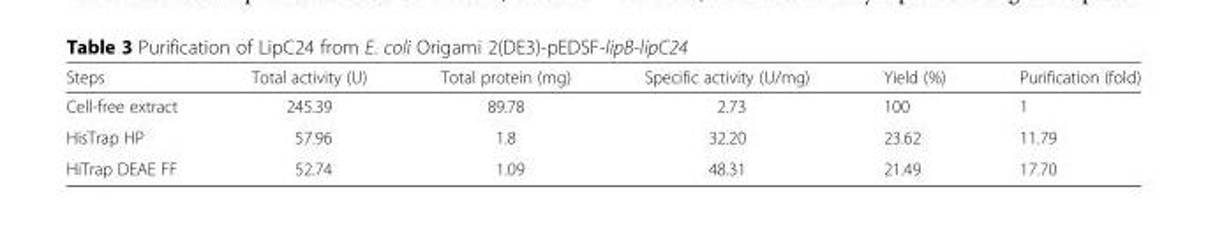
<table><thead><tr><td>Steps</td><td>Total activity (U)</td><td>Total protein (mg)</td><td>Specific activity (U/mg)</td><td>Yield (%)</td><td>Purification (fold)</td></tr></thead><tbody><tr><td>Cell-free extract</td><td>245.39</td><td>89.78</td><td>2.73</td><td>100</td><td>1</td></tr><tr><td>HisTrap HP</td><td>57.96</td><td>1.8</td><td>32.20</td><td>23.62</td><td>11.79</td></tr><tr><td>HiTrap DEAE FF</td><td>52.74</td><td>1.09</td><td>48.31</td><td>21.49</td><td>17.70</td></tr></tbody></table>